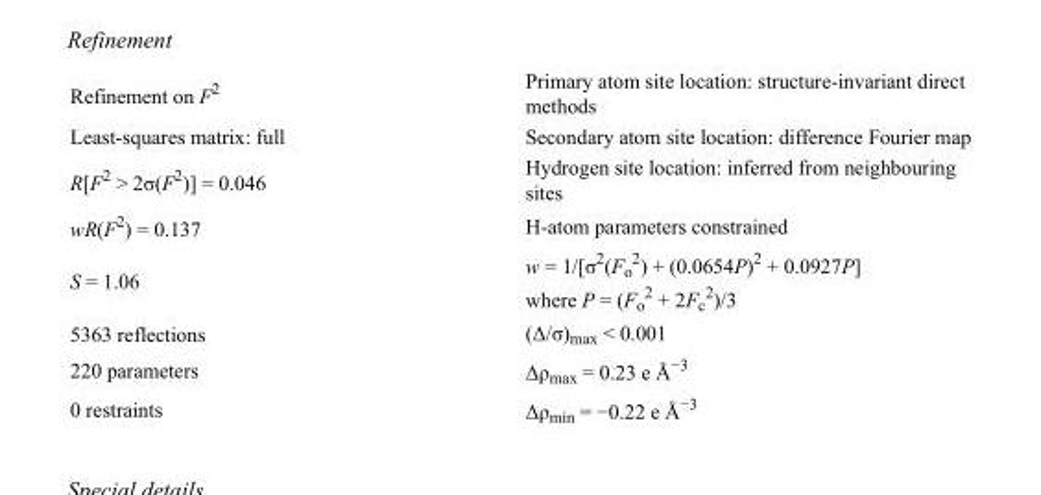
<table><tbody><tr><td>Refinement on F<sup>2</sup></td><td>Primary atom site location: structure-invariant direct methods</td></tr><tr><td>Least-squares matrix: full</td><td>Secondary atom site location: difference Fourier map</td></tr><tr><td>R[F<sup>2</sup> &gt; 2σ(F<sup>2</sup>)] = 0.046</td><td>Hydrogen site location: inferred from neighbouring sites</td></tr><tr><td>wR(F<sup>2</sup>) = 0.137</td><td>H-atom parameters constrained</td></tr><tr><td>S = 1.06</td><td>w = 1/[σ<sup>2</sup>(F<sub>o</sub> <sup>2</sup>) + (0.0654P)<sup>2</sup> + 0.0927P] where P = (F<sub>o</sub> <sup>2</sup> + 2F<sub>c</sub> <sup>2</sup>)/3</td></tr><tr><td>5363 reflections</td><td>(Δ/σ)<sub>max</sub> &lt; 0.001</td></tr><tr><td>220 parameters</td><td>Δρ<sub>max</sub> = 0.23 e Å<sup>−3</sup></td></tr><tr><td>0 restraints</td><td>Δρ<sub>min</sub> = −0.22 e Å<sup>−3</sup></td></tr></tbody></table>